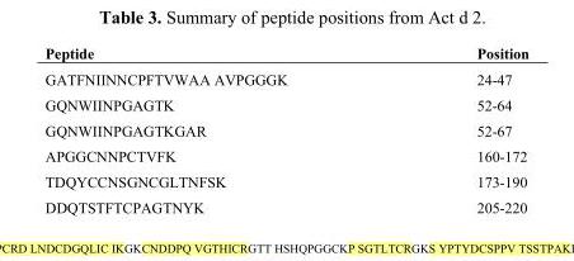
<table><thead><tr><td>Peptide</td><td>Position</td></tr></thead><tbody><tr><td>GATFNIINNCPFTVWAA AVPGGGK</td><td>24-47</td></tr><tr><td>GQNWIINPGAGTK</td><td>52-64</td></tr><tr><td>GQNWIINPGAGTKGAR</td><td>52-67</td></tr><tr><td>APGGCNNPCTVFK</td><td>160-172</td></tr><tr><td>TDQYCCNSGNCGLTNFSK</td><td>173-190</td></tr><tr><td>DDQTSTFTCPAGTNYK</td><td>205-220</td></tr></tbody></table>